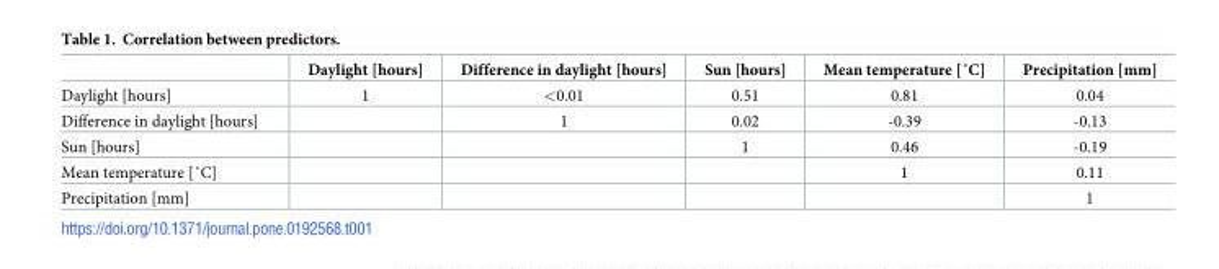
<table><thead><tr><td></td><td>Daylight [hours]</td><td>Difference in daylight [hours]</td><td>Sun [hours]</td><td>Mean temperature [˚C]</td><td>Precipitation [mm]</td></tr></thead><tbody><tr><td>Daylight [hours]</td><td>1</td><td>&lt;0.01</td><td>0.51</td><td>0.81</td><td>0.04</td></tr><tr><td>Difference in daylight [hours]</td><td></td><td>1</td><td>0.02</td><td>-0.39</td><td>-0.13</td></tr><tr><td>Sun [hours]</td><td></td><td></td><td>1</td><td>0.46</td><td>-0.19</td></tr><tr><td>Mean temperature [˚C]</td><td></td><td></td><td></td><td>1</td><td>0.11</td></tr><tr><td>Precipitation [mm]</td><td></td><td></td><td></td><td></td><td>1</td></tr></tbody></table>